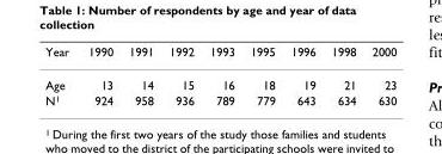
<table><thead><tr><td>Year</td><td>1990</td><td>1991</td><td>1992</td><td>1993</td><td>1995</td><td>1996</td><td>1998</td><td>2000</td></tr></thead><tbody><tr><td>Age</td><td>13</td><td>14</td><td>15</td><td>16</td><td>18</td><td>19</td><td>21</td><td>23</td></tr><tr><td>N<sup>1</sup></td><td>924</td><td>958</td><td>936</td><td>789</td><td>779</td><td>643</td><td>634</td><td>630</td></tr></tbody></table>